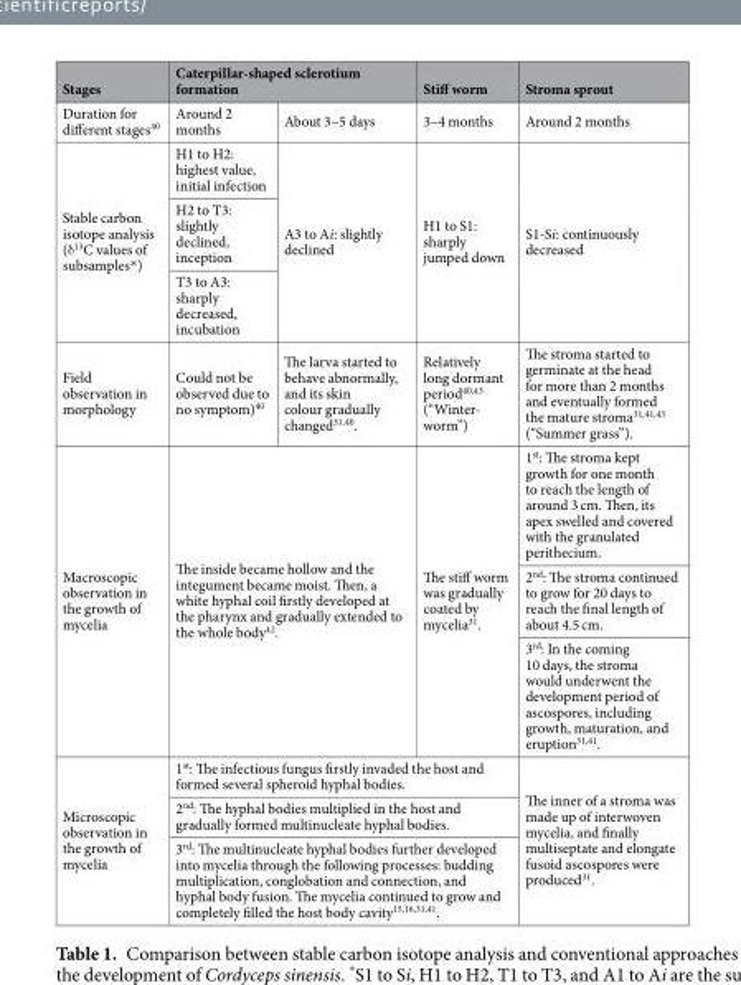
<table><thead><tr><td rowspan="2">Stages Duration for different stages<sup>40</sup></td><td colspan="2">Caterpillar-shaped sclerotium formation</td><td rowspan="2">Stiff worm 3–4 months</td><td rowspan="2">Stroma sprout Around 2 months</td></tr><tr><td>Around 2 months</td><td>About 3–5 days</td></tr></thead><tbody><tr><td rowspan="3">Stable carbon isotope analysis (δ<sup>13</sup>C values of subsamples*)</td><td>H1 to H2: highest value, initial infection</td><td rowspan="3">A3 to Ai: slightly declined</td><td rowspan="3">H1 to S1: sharply jumped down</td><td rowspan="3">S1-Si: continuously decreased</td></tr><tr><td>H2 to T3: slightly declined, inception</td></tr><tr><td>T3 to A3: sharply decreased, incubation</td></tr><tr><td>Field observation in morphology</td><td>Could not be observed due to no symptom)<sup>40</sup></td><td>The larva started to behave abnormally, and its skin colour gradually changed<sup>31,40</sup>.</td><td>Relatively long dormant period<sup>40,43</sup> (“Winter- worm”)</td><td>The stroma started to germinate at the head for more than 2 months and eventually formed the mature stroma<sup>31,41,43</sup> (“Summer grass”).</td></tr><tr><td rowspan="3">Macroscopic observation in the growth of mycelia</td><td rowspan="3" colspan="2">The inside became hollow and the integument became moist. Then, a white hyphal coil firstly developed at the pharynx and gradually extended to the whole body<sup>42</sup>.</td><td rowspan="3">The stiff worm was gradually coated by mycelia<sup>31</sup>.</td><td>1<sup>st</sup>: The stroma kept growth for one month to reach the length of around 3 cm. Then, its apex swelled and covered with the granulated perithecium.</td></tr><tr><td>2<sup>nd</sup>: The stroma continued to grow for 20 days to reach the final length of about 4.5 cm.</td></tr><tr><td>3<sup>rd</sup>: In the coming 10 days, the stroma would underwent the development period of ascospores, including growth, maturation, and eruption<sup>31,41</sup>.</td></tr><tr><td rowspan="3">Microscopic observation in the growth of mycelia</td><td colspan="3">1<sup>st</sup>: The infectious fungus firstly invaded the host and formed several spheroid hyphal bodies.</td><td rowspan="3">The inner of a stroma was made up of interwoven mycelia, and finally multiseptate and elongate fusoid ascospores were produced<sup>31</sup>.</td></tr><tr><td colspan="3">2<sup>nd</sup>: The hyphal bodies multiplied in the host and gradually formed multinucleate hyphal bodies.</td></tr><tr><td colspan="3">3<sup>rd</sup>: The multinucleate hyphal bodies further developed into mycelia through the following processes: budding multiplication, conglobation and connection, and hyphal body fusion. The mycelia continued to grow and completely filled the host body cavity<sup>15,16,31,41</sup>.</td></tr></tbody></table>